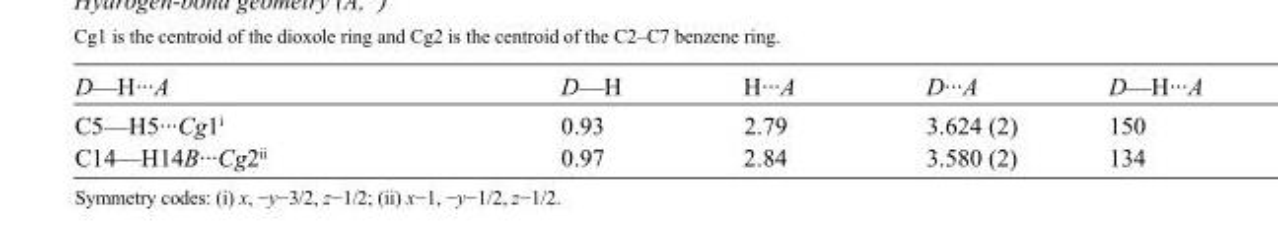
<table><tbody><tr><td>D—H···A</td><td>D—H</td><td>H···A</td><td>D···A</td><td>D—H···A</td></tr><tr><td>C5—H5···Cg1<sup>i</sup></td><td>0.93</td><td>2.79</td><td>3.624 (2)</td><td>150</td></tr><tr><td>C14—H14B···Cg2<sup>ii</sup></td><td>0.97</td><td>2.84</td><td>3.580 (2)</td><td>134</td></tr></tbody></table>